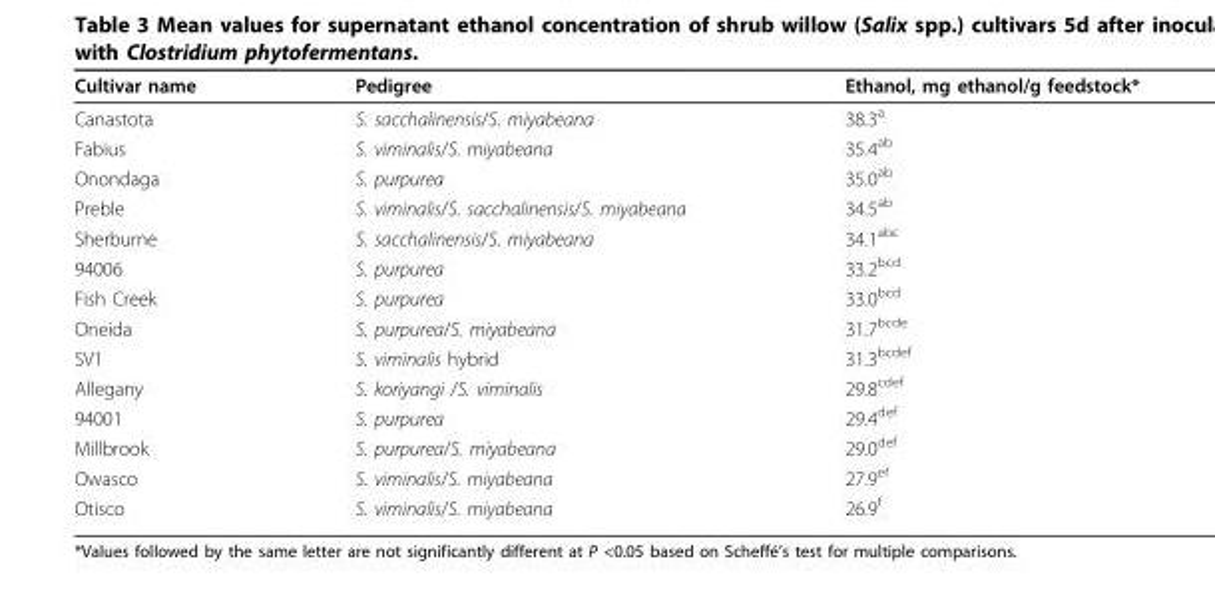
<table><thead><tr><td>Cultivar name</td><td>Pedigree</td><td>Ethanol, mg ethanol/g feedstock*</td></tr></thead><tbody><tr><td>Canastota</td><td>S. sacchalinensis/S. miyabeana</td><td>38.3<sup>a</sup></td></tr><tr><td>Fabius</td><td>S. viminalis/S. miyabeana</td><td>35.4<sup>ab</sup></td></tr><tr><td>Onondaga</td><td>S. purpurea</td><td>35.0<sup>ab</sup></td></tr><tr><td>Preble</td><td>S. viminalis/S. sacchalinensis/S. miyabeana</td><td>34.5<sup>ab</sup></td></tr><tr><td>Sherburne</td><td>S. sacchalinensis/S. miyabeana</td><td>34.1<sup>abc</sup></td></tr><tr><td>94006</td><td>S. purpurea</td><td>33.2<sup>bcd</sup></td></tr><tr><td>Fish Creek</td><td>S. purpurea</td><td>33.0<sup>bcd</sup></td></tr><tr><td>Oneida</td><td>S. purpurea/S. miyabeana</td><td>31.7<sup>bcde</sup></td></tr><tr><td>SV1</td><td>S. viminalis hybrid</td><td>31.3<sup>bcdef</sup></td></tr><tr><td>Allegany</td><td>S. koriyangi /S. viminalis</td><td>29.8<sup>cdef</sup></td></tr><tr><td>94001</td><td>S. purpurea</td><td>29.4<sup>def</sup></td></tr><tr><td>Millbrook</td><td>S. purpurea/S. miyabeana</td><td>29.0<sup>def</sup></td></tr><tr><td>Owasco</td><td>S. viminalis/S. miyabeana</td><td>27.9<sup>ef</sup></td></tr><tr><td>Otisco</td><td>S. viminalis/S. miyabeana</td><td>26.9<sup>f</sup></td></tr></tbody></table>